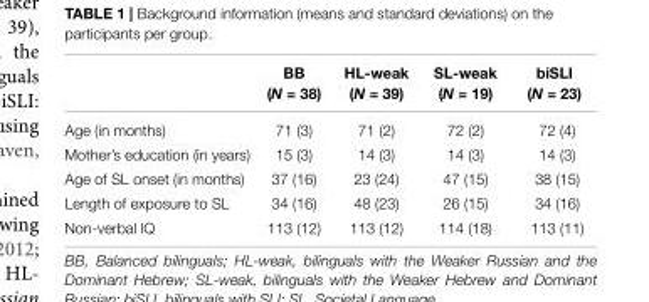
<table><thead><tr><td></td><td>BB (N = 38)</td><td>HL-weak (N = 39)</td><td>SL-weak (N = 19)</td><td>biSLI (N = 23)</td></tr></thead><tbody><tr><td>Age (in months)</td><td>71 (3)</td><td>71 (2)</td><td>72 (2)</td><td>72 (4)</td></tr><tr><td>Mother’s education (in years)</td><td>15 (3)</td><td>14 (3)</td><td>14 (3)</td><td>14 (3)</td></tr><tr><td>Age of SL onset (in months)</td><td>37 (16)</td><td>23 (24)</td><td>47 (15)</td><td>38 (15)</td></tr><tr><td>Length of exposure to SL</td><td>34 (16)</td><td>48 (23)</td><td>26 (15)</td><td>34 (16)</td></tr><tr><td>Non-verbal IQ</td><td>113 (12)</td><td>113 (12)</td><td>114 (18)</td><td>113 (11)</td></tr></tbody></table>